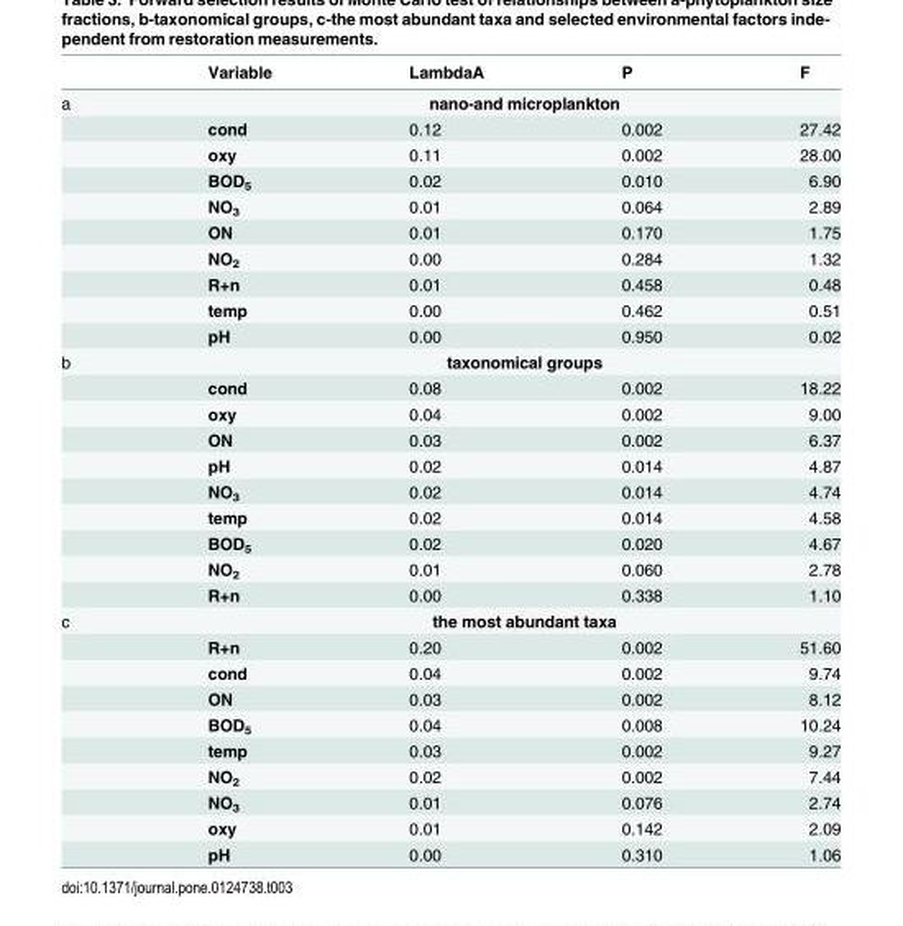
<table><thead><tr><td></td><td>Variable</td><td>LambdaA</td><td>P</td><td>F</td></tr></thead><tbody><tr><td rowspan="10">a</td><td colspan="4">nano-and microplankton</td></tr><tr><td>cond</td><td>0.12</td><td>0.002</td><td>27.42</td></tr><tr><td>oxy</td><td>0.11</td><td>0.002</td><td>28.00</td></tr><tr><td>BOD<sub>5</sub></td><td>0.02</td><td>0.010</td><td>6.90</td></tr><tr><td>NO<sub>3</sub></td><td>0.01</td><td>0.064</td><td>2.89</td></tr><tr><td>ON</td><td>0.01</td><td>0.170</td><td>1.75</td></tr><tr><td>NO<sub>2</sub></td><td>0.00</td><td>0.284</td><td>1.32</td></tr><tr><td>R+n</td><td>0.01</td><td>0.458</td><td>0.48</td></tr><tr><td>temp</td><td>0.00</td><td>0.462</td><td>0.51</td></tr><tr><td>pH</td><td>0.00</td><td>0.950</td><td>0.02</td></tr><tr><td rowspan="10">b</td><td colspan="4">taxonomical groups</td></tr><tr><td>cond</td><td>0.08</td><td>0.002</td><td>18.22</td></tr><tr><td>oxy</td><td>0.04</td><td>0.002</td><td>9.00</td></tr><tr><td>ON</td><td>0.03</td><td>0.002</td><td>6.37</td></tr><tr><td>pH</td><td>0.02</td><td>0.014</td><td>4.87</td></tr><tr><td>NO<sub>3</sub></td><td>0.02</td><td>0.014</td><td>4.74</td></tr><tr><td>temp</td><td>0.02</td><td>0.014</td><td>4.58</td></tr><tr><td>BOD<sub>5</sub></td><td>0.02</td><td>0.020</td><td>4.67</td></tr><tr><td>NO<sub>2</sub></td><td>0.01</td><td>0.060</td><td>2.78</td></tr><tr><td>R+n</td><td>0.00</td><td>0.338</td><td>1.10</td></tr><tr><td rowspan="10">c</td><td colspan="4">the most abundant taxa</td></tr><tr><td>R+n</td><td>0.20</td><td>0.002</td><td>51.60</td></tr><tr><td>cond</td><td>0.04</td><td>0.002</td><td>9.74</td></tr><tr><td>ON</td><td>0.03</td><td>0.002</td><td>8.12</td></tr><tr><td>BOD<sub>5</sub></td><td>0.04</td><td>0.008</td><td>10.24</td></tr><tr><td>temp</td><td>0.03</td><td>0.002</td><td>9.27</td></tr><tr><td>NO<sub>2</sub></td><td>0.02</td><td>0.002</td><td>7.44</td></tr><tr><td>NO<sub>3</sub></td><td>0.01</td><td>0.076</td><td>2.74</td></tr><tr><td>oxy</td><td>0.01</td><td>0.142</td><td>2.09</td></tr><tr><td>pH</td><td>0.00</td><td>0.310</td><td>1.06</td></tr></tbody></table>